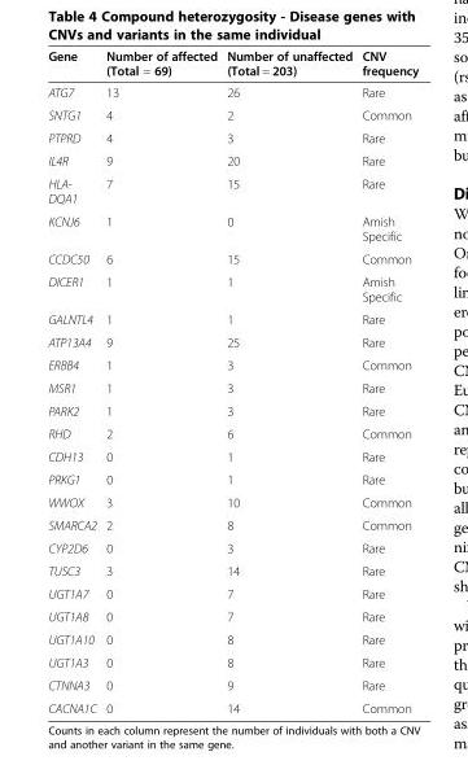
<table><thead><tr><td>Gene</td><td>Number of affected (Total = 69)</td><td>Number of unaffected (Total = 203)</td><td>CNV frequency</td></tr></thead><tbody><tr><td>ATG7</td><td>13</td><td>26</td><td>Rare</td></tr><tr><td>SNTG1</td><td>4</td><td>2</td><td>Common</td></tr><tr><td>PTPRD</td><td>4</td><td>3</td><td>Rare</td></tr><tr><td>IL4R</td><td>9</td><td>20</td><td>Rare</td></tr><tr><td>HLA- DQA1</td><td>7</td><td>15</td><td>Rare</td></tr><tr><td>KCNJ6</td><td>1</td><td>0</td><td>Amish Specific</td></tr><tr><td>CCDC50</td><td>6</td><td>15</td><td>Common</td></tr><tr><td>DICER1</td><td>1</td><td>1</td><td>Amish Specific</td></tr><tr><td>GALNTL4</td><td>1</td><td>1</td><td>Rare</td></tr><tr><td>ATP13A4</td><td>9</td><td>25</td><td>Rare</td></tr><tr><td>ERBB4</td><td>1</td><td>3</td><td>Common</td></tr><tr><td>MSR1</td><td>1</td><td>3</td><td>Rare</td></tr><tr><td>PARK2</td><td>1</td><td>3</td><td>Rare</td></tr><tr><td>RHD</td><td>2</td><td>6</td><td>Common</td></tr><tr><td>CDH13</td><td>0</td><td>1</td><td>Rare</td></tr><tr><td>PRKG1</td><td>0</td><td>1</td><td>Rare</td></tr><tr><td>WWOX</td><td>3</td><td>10</td><td>Common</td></tr><tr><td>SMARCA2</td><td>2</td><td>8</td><td>Common</td></tr><tr><td>CYP2D6</td><td>0</td><td>3</td><td>Rare</td></tr><tr><td>TUSC3</td><td>3</td><td>14</td><td>Rare</td></tr><tr><td>UGT1A7</td><td>0</td><td>7</td><td>Rare</td></tr><tr><td>UGT1A8</td><td>0</td><td>7</td><td>Rare</td></tr><tr><td>UGT1A10</td><td>0</td><td>8</td><td>Rare</td></tr><tr><td>UGT1A3</td><td>0</td><td>8</td><td>Rare</td></tr><tr><td>CTNNA3</td><td>0</td><td>9</td><td>Rare</td></tr><tr><td>CACNA1C</td><td>0</td><td>14</td><td>Common</td></tr></tbody></table>